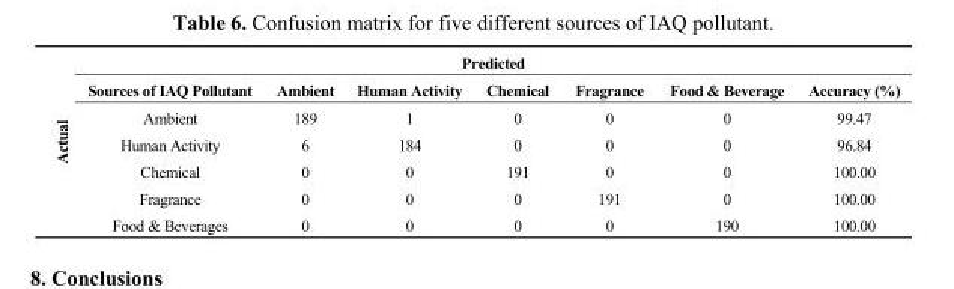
<table><tbody><tr><td rowspan="7">Actual</td><td colspan="7">Predicted</td></tr><tr><td>Sources of IAQ Pollutant</td><td>Ambient</td><td>Human Activity</td><td>Chemical</td><td>Fragrance</td><td>Food &amp; Beverage</td><td>Accuracy (%)</td></tr><tr><td>Ambient</td><td>189</td><td>1</td><td>0</td><td>0</td><td>0</td><td>99.47</td></tr><tr><td>Human Activity</td><td>6</td><td>184</td><td>0</td><td>0</td><td>0</td><td>96.84</td></tr><tr><td>Chemical</td><td>0</td><td>0</td><td>191</td><td>0</td><td>0</td><td>100.00</td></tr><tr><td>Fragrance</td><td>0</td><td>0</td><td>0</td><td>191</td><td>0</td><td>100.00</td></tr><tr><td>Food &amp; Beverages</td><td>0</td><td>0</td><td>0</td><td>0</td><td>190</td><td>100.00</td></tr></tbody></table>